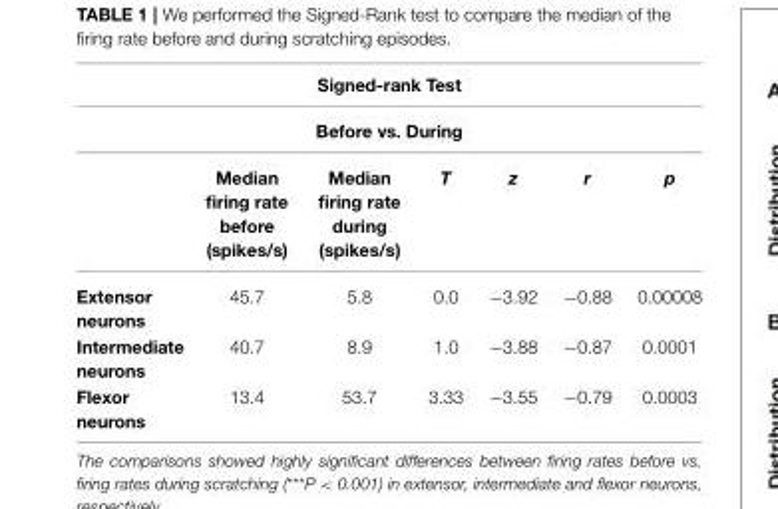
<table><thead><tr><td rowspan="2" colspan="7">Signed-rank Test Before vs. During</td></tr><tr></tr><tr><td></td><td>Median firing rate before (spikes/s)</td><td>Median firing rate during (spikes/s)</td><td>T</td><td>z</td><td>r</td><td>p</td></tr></thead><tbody><tr><td>Extensor neurons</td><td>45.7</td><td>5.8</td><td>0.0</td><td>−3.92</td><td>−0.88</td><td>0.00008</td></tr><tr><td>Intermediate neurons</td><td>40.7</td><td>8.9</td><td>1.0</td><td>−3.88</td><td>−0.87</td><td>0.0001</td></tr><tr><td>Flexor neurons</td><td>13.4</td><td>53.7</td><td>3.33</td><td>−3.55</td><td>−0.79</td><td>0.0003</td></tr></tbody></table>